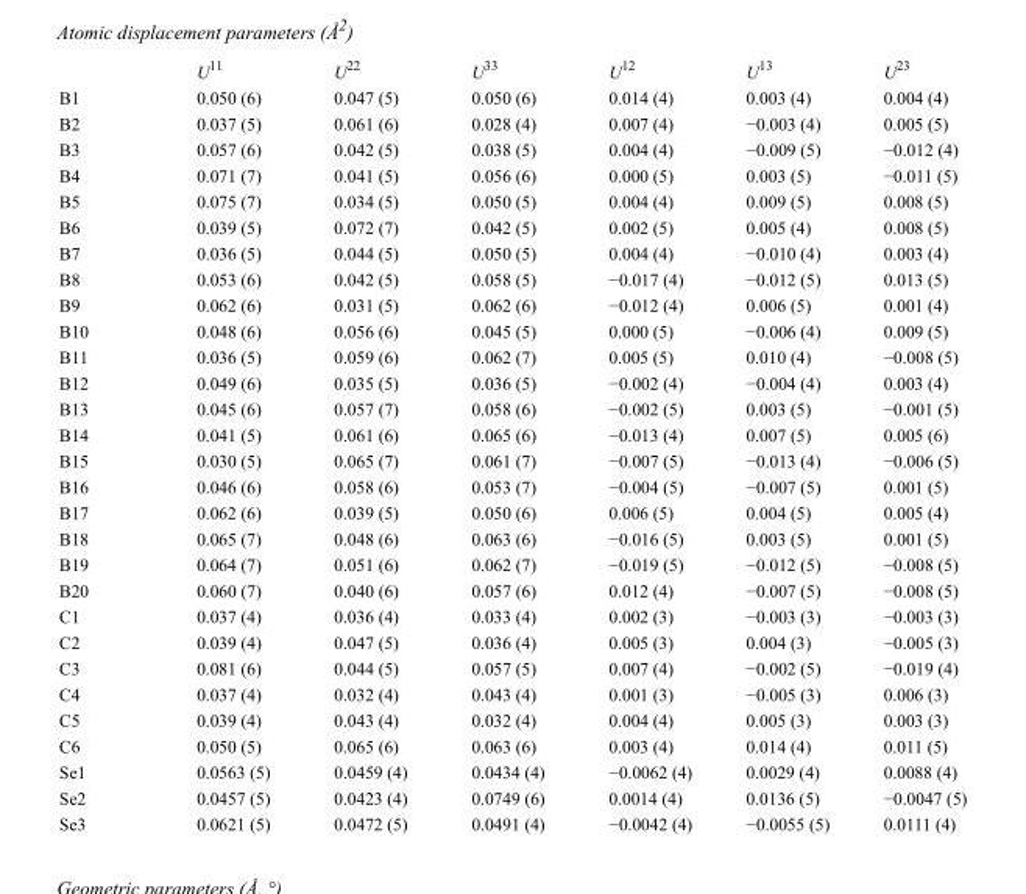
<table><thead><tr><td></td><td>U<sup>11</sup></td><td>U<sup>22</sup></td><td>U<sup>33</sup></td><td>U<sup>12</sup></td><td>U<sup>13</sup></td><td>U<sup>23</sup></td></tr></thead><tbody><tr><td>B1</td><td>0.050 (6)</td><td>0.047 (5)</td><td>0.050 (6)</td><td>0.014 (4)</td><td>0.003 (4)</td><td>0.004 (4)</td></tr><tr><td>B2</td><td>0.037 (5)</td><td>0.061 (6)</td><td>0.028 (4)</td><td>0.007 (4)</td><td>−0.003 (4)</td><td>0.005 (5)</td></tr><tr><td>B3</td><td>0.057 (6)</td><td>0.042 (5)</td><td>0.038 (5)</td><td>0.004 (4)</td><td>−0.009 (5)</td><td>−0.012 (4)</td></tr><tr><td>B4</td><td>0.071 (7)</td><td>0.041 (5)</td><td>0.056 (6)</td><td>0.000 (5)</td><td>0.003 (5)</td><td>−0.011 (5)</td></tr><tr><td>B5</td><td>0.075 (7)</td><td>0.034 (5)</td><td>0.050 (5)</td><td>0.004 (4)</td><td>0.009 (5)</td><td>0.008 (5)</td></tr><tr><td>B6</td><td>0.039 (5)</td><td>0.072 (7)</td><td>0.042 (5)</td><td>0.002 (5)</td><td>0.005 (4)</td><td>0.008 (5)</td></tr><tr><td>B7</td><td>0.036 (5)</td><td>0.044 (5)</td><td>0.050 (5)</td><td>0.004 (4)</td><td>−0.010 (4)</td><td>0.003 (4)</td></tr><tr><td>B8</td><td>0.053 (6)</td><td>0.042 (5)</td><td>0.058 (5)</td><td>−0.017 (4)</td><td>−0.012 (5)</td><td>0.013 (5)</td></tr><tr><td>B9</td><td>0.062 (6)</td><td>0.031 (5)</td><td>0.062 (6)</td><td>−0.012 (4)</td><td>0.006 (5)</td><td>0.001 (4)</td></tr><tr><td>B10</td><td>0.048 (6)</td><td>0.056 (6)</td><td>0.045 (5)</td><td>0.000 (5)</td><td>−0.006 (4)</td><td>0.009 (5)</td></tr><tr><td>B11</td><td>0.036 (5)</td><td>0.059 (6)</td><td>0.062 (7)</td><td>0.005 (5)</td><td>0.010 (4)</td><td>−0.008 (5)</td></tr><tr><td>B12</td><td>0.049 (6)</td><td>0.035 (5)</td><td>0.036 (5)</td><td>−0.002 (4)</td><td>−0.004 (4)</td><td>0.003 (4)</td></tr><tr><td>B13</td><td>0.045 (6)</td><td>0.057 (7)</td><td>0.058 (6)</td><td>−0.002 (5)</td><td>0.003 (5)</td><td>−0.001 (5)</td></tr><tr><td>B14</td><td>0.041 (5)</td><td>0.061 (6)</td><td>0.065 (6)</td><td>−0.013 (4)</td><td>0.007 (5)</td><td>0.005 (6)</td></tr><tr><td>B15</td><td>0.030 (5)</td><td>0.065 (7)</td><td>0.061 (7)</td><td>−0.007 (5)</td><td>−0.013 (4)</td><td>−0.006 (5)</td></tr><tr><td>B16</td><td>0.046 (6)</td><td>0.058 (6)</td><td>0.053 (7)</td><td>−0.004 (5)</td><td>−0.007 (5)</td><td>0.001 (5)</td></tr><tr><td>B17</td><td>0.062 (6)</td><td>0.039 (5)</td><td>0.050 (6)</td><td>0.006 (5)</td><td>0.004 (5)</td><td>0.005 (4)</td></tr><tr><td>B18</td><td>0.065 (7)</td><td>0.048 (6)</td><td>0.063 (6)</td><td>−0.016 (5)</td><td>0.003 (5)</td><td>0.001 (5)</td></tr><tr><td>B19</td><td>0.064 (7)</td><td>0.051 (6)</td><td>0.062 (7)</td><td>−0.019 (5)</td><td>−0.012 (5)</td><td>−0.008 (5)</td></tr><tr><td>B20</td><td>0.060 (7)</td><td>0.040 (6)</td><td>0.057 (6)</td><td>0.012 (4)</td><td>−0.007 (5)</td><td>−0.008 (5)</td></tr><tr><td>C1</td><td>0.037 (4)</td><td>0.036 (4)</td><td>0.033 (4)</td><td>0.002 (3)</td><td>−0.003 (3)</td><td>−0.003 (3)</td></tr><tr><td>C2</td><td>0.039 (4)</td><td>0.047 (5)</td><td>0.036 (4)</td><td>0.005 (3)</td><td>0.004 (3)</td><td>−0.005 (3)</td></tr><tr><td>C3</td><td>0.081 (6)</td><td>0.044 (5)</td><td>0.057 (5)</td><td>0.007 (4)</td><td>−0.002 (5)</td><td>−0.019 (4)</td></tr><tr><td>C4</td><td>0.037 (4)</td><td>0.032 (4)</td><td>0.043 (4)</td><td>0.001 (3)</td><td>−0.005 (3)</td><td>0.006 (3)</td></tr><tr><td>C5</td><td>0.039 (4)</td><td>0.043 (4)</td><td>0.032 (4)</td><td>0.004 (4)</td><td>0.005 (3)</td><td>0.003 (3)</td></tr><tr><td>C6</td><td>0.050 (5)</td><td>0.065 (6)</td><td>0.063 (6)</td><td>0.003 (4)</td><td>0.014 (4)</td><td>0.011 (5)</td></tr><tr><td>Se1</td><td>0.0563 (5)</td><td>0.0459 (4)</td><td>0.0434 (4)</td><td>−0.0062 (4)</td><td>0.0029 (4)</td><td>0.0088 (4)</td></tr><tr><td>Se2</td><td>0.0457 (5)</td><td>0.0423 (4)</td><td>0.0749 (6)</td><td>0.0014 (4)</td><td>0.0136 (5)</td><td>−0.0047 (5)</td></tr><tr><td>Se3</td><td>0.0621 (5)</td><td>0.0472 (5)</td><td>0.0491 (4)</td><td>−0.0042 (4)</td><td>−0.0055 (5)</td><td>0.0111 (4)</td></tr></tbody></table>